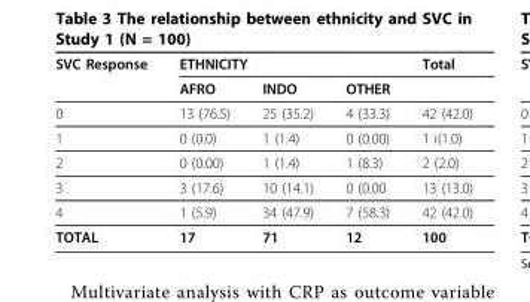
<table><thead><tr><td rowspan="2">SVC Response</td><td colspan="3">ETHNICITY</td><td rowspan="2">Total</td></tr><tr><td>AFRO</td><td>INDO</td><td>OTHER</td></tr></thead><tbody><tr><td>0</td><td>13 (76.5)</td><td>25 (35.2)</td><td>4 (33.3)</td><td>42 (42.0)</td></tr><tr><td>1</td><td>0 (0.0)</td><td>1 (1.4)</td><td>0 (0.00)</td><td>1 i(1.0)</td></tr><tr><td>2</td><td>0 (0.00)</td><td>1 (1.4)</td><td>1 (8.3)</td><td>2 (2.0)</td></tr><tr><td>3</td><td>3 (17.6)</td><td>10 (14.1)</td><td>0 (0.00</td><td>13 (13.0)</td></tr><tr><td>4</td><td>1 (5.9)</td><td>34 (47.9)</td><td>7 (58.3)</td><td>42 (42.0)</td></tr><tr><td>TOTAL</td><td>17</td><td>71</td><td>12</td><td>100</td></tr></tbody></table>